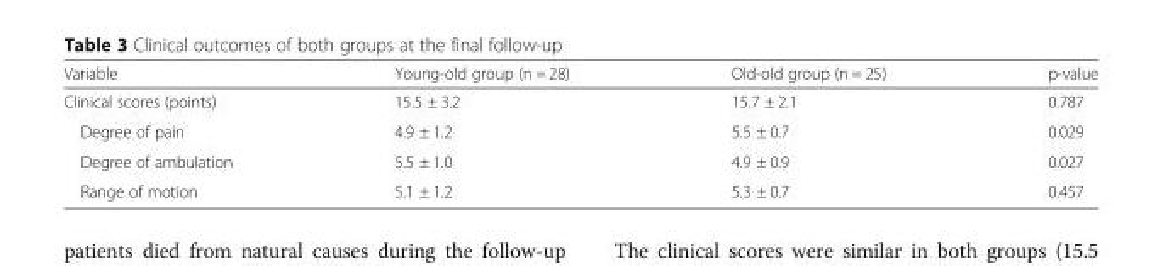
<table><thead><tr><td>Variable</td><td>Young-old group (n = 28)</td><td>Old-old group (n = 25)</td><td>p-value</td></tr></thead><tbody><tr><td>Clinical scores (points)</td><td>15.5 ± 3.2</td><td>15.7 ± 2.1</td><td>0.787</td></tr><tr><td>Degree of pain</td><td>4.9 ± 1.2</td><td>5.5 ± 0.7</td><td>0.029</td></tr><tr><td>Degree of ambulation</td><td>5.5 ± 1.0</td><td>4.9 ± 0.9</td><td>0.027</td></tr><tr><td>Range of motion</td><td>5.1 ± 1.2</td><td>5.3 ± 0.7</td><td>0.457</td></tr></tbody></table>